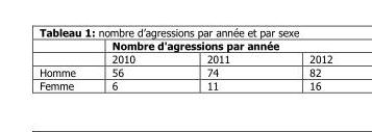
<table><thead><tr><td rowspan="2"></td><td colspan="3">Nombre d&#x27;agressions par année</td></tr><tr><td>2010</td><td>2011</td><td>2012</td></tr></thead><tbody><tr><td>Homme</td><td>56</td><td>74</td><td>82</td></tr><tr><td>Femme</td><td>6</td><td>11</td><td>16</td></tr></tbody></table>